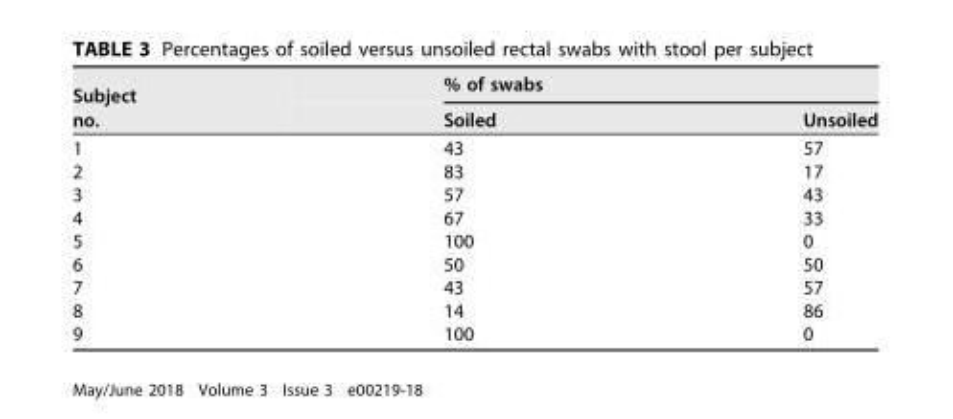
<table><thead><tr><td rowspan="2">Subject no.</td><td colspan="2">% of swabs</td></tr><tr><td>Soiled</td><td>Unsoiled</td></tr></thead><tbody><tr><td>1</td><td>43</td><td>57</td></tr><tr><td>2</td><td>83</td><td>17</td></tr><tr><td>3</td><td>57</td><td>43</td></tr><tr><td>4</td><td>67</td><td>33</td></tr><tr><td>5</td><td>100</td><td>0</td></tr><tr><td>6</td><td>50</td><td>50</td></tr><tr><td>7</td><td>43</td><td>57</td></tr><tr><td>8</td><td>14</td><td>86</td></tr><tr><td>9</td><td>100</td><td>0</td></tr></tbody></table>